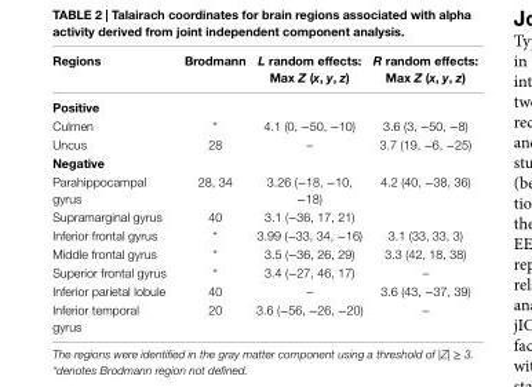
<table><thead><tr><td>regions</td><td>Brodmann</td><td>L random effects: Max Z (x, y, z)</td><td>R random effects: Max Z (x, y, z)</td></tr></thead><tbody><tr><td colspan="4">Positive</td></tr><tr><td>Culmen</td><td>*</td><td>4.1 (0, −50, −10)</td><td>3.6 (3, −50, −8)</td></tr><tr><td>Uncus</td><td>28</td><td>–</td><td>3.7 (19, −6, −25)</td></tr><tr><td colspan="4">negative</td></tr><tr><td>Parahippocampal gyrus</td><td>28, 34</td><td>3.26 (−18, −10, −18)</td><td rowspan="2">4.2 (40, −38, 36)</td></tr><tr><td>Supramarginal gyrus</td><td>40</td><td>3.1 (−36, 17, 21)</td></tr><tr><td>Inferior frontal gyrus</td><td>*</td><td>3.99 (−33, 34, −16)</td><td>3.1 (33, 33, 3)</td></tr><tr><td>Middle frontal gyrus</td><td>*</td><td>3.5 (−36, 26, 29)</td><td>3.3 (42, 18, 38)</td></tr><tr><td>Superior frontal gyrus</td><td>*</td><td>3.4 (−27, 46, 17)</td><td>–</td></tr><tr><td>Inferior parietal lobule</td><td>40</td><td>–</td><td>3.6 (43, −37, 39)</td></tr><tr><td>Inferior temporal gyrus</td><td>20</td><td>3.6 (−56, −26, −20)</td><td>–</td></tr></tbody></table>